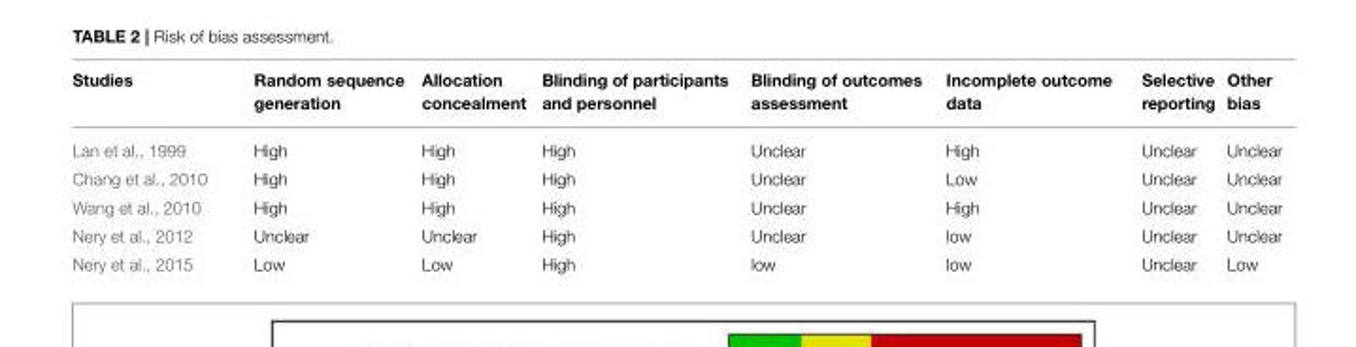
<table><thead><tr><td>Studies</td><td>Random sequence generation</td><td>Allocation concealment</td><td>Blinding of participants and personnel</td><td>Blinding of outcomes assessment</td><td>Incomplete outcome data</td><td>Selective reporting</td><td>Other bias</td></tr></thead><tbody><tr><td>Lan et al., 1999</td><td>High</td><td>High</td><td>High</td><td>Unclear</td><td>High</td><td>Unclear</td><td>Unclear</td></tr><tr><td>Chang et al., 2010</td><td>High</td><td>High</td><td>High</td><td>Unclear</td><td>Low</td><td>Unclear</td><td>Unclear</td></tr><tr><td>Wang et al., 2010</td><td>High</td><td>High</td><td>High</td><td>Unclear</td><td>High</td><td>Unclear</td><td>Unclear</td></tr><tr><td>Nery et al., 2012</td><td>Unclear</td><td>Unclear</td><td>High</td><td>Unclear</td><td>low</td><td>Unclear</td><td>Unclear</td></tr><tr><td>Nery et al., 2015</td><td>Low</td><td>Low</td><td>High</td><td>low</td><td>low</td><td>Unclear</td><td>Low</td></tr></tbody></table>